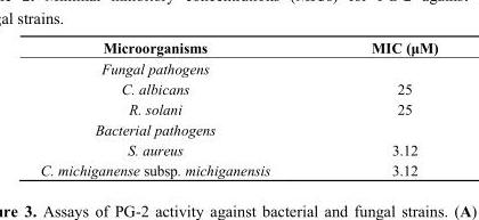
<table><thead><tr><td>Microorganisms</td><td>MIC (μM)</td></tr></thead><tbody><tr><td colspan="2">Fungal pathogens</td></tr><tr><td>C. albicans</td><td>25</td></tr><tr><td>R. solani</td><td>25</td></tr><tr><td colspan="2">Bacterial pathogens</td></tr><tr><td>S. aureus</td><td>3.12</td></tr><tr><td>C. michiganense subsp. michiganensis</td><td>3.12</td></tr></tbody></table>